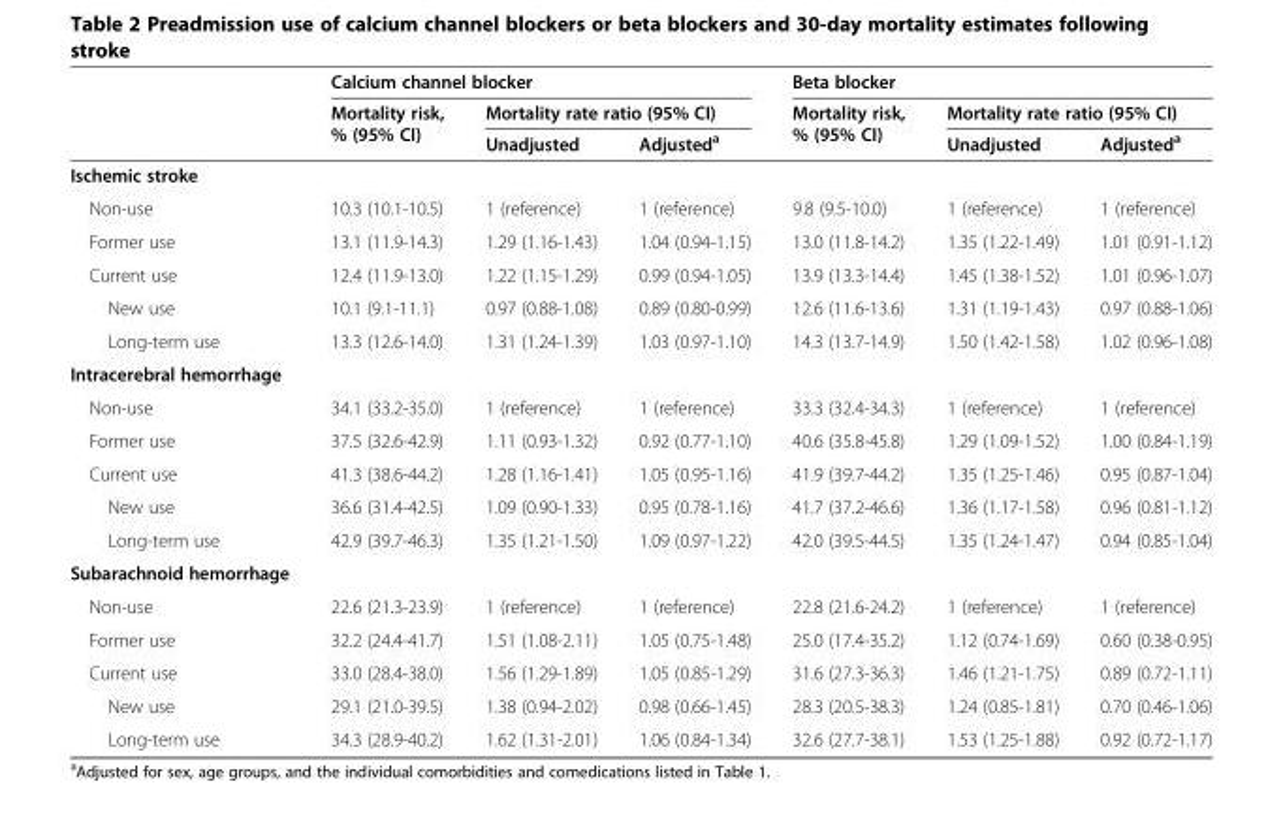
<table><thead><tr><td rowspan="3"></td><td colspan="3">Calcium channel blocker</td><td colspan="3">Beta blocker</td></tr><tr><td rowspan="2">Mortality risk, % (95% CI)</td><td colspan="2">Mortality rate ratio (95% CI)</td><td rowspan="2">Mortality risk, % (95% CI)</td><td colspan="2">Mortality rate ratio (95% CI)</td></tr><tr><td>Unadjusted</td><td>Adjusted<sup>a</sup></td><td>Unadjusted</td><td>Adjusted<sup>a</sup></td></tr></thead><tbody><tr><td colspan="7">Ischemic stroke</td></tr><tr><td>Non-use</td><td>10.3 (10.1-10.5)</td><td>1 (reference)</td><td>1 (reference)</td><td>9.8 (9.5-10.0)</td><td>1 (reference)</td><td>1 (reference)</td></tr><tr><td>Former use</td><td>13.1 (11.9-14.3)</td><td>1.29 (1.16-1.43)</td><td>1.04 (0.94-1.15)</td><td>13.0 (11.8-14.2)</td><td>1.35 (1.22-1.49)</td><td>1.01 (0.91-1.12)</td></tr><tr><td>Current use</td><td>12.4 (11.9-13.0)</td><td>1.22 (1.15-1.29)</td><td>0.99 (0.94-1.05)</td><td>13.9 (13.3-14.4)</td><td>1.45 (1.38-1.52)</td><td>1.01 (0.96-1.07)</td></tr><tr><td>New use</td><td>10.1 (9.1-11.1)</td><td>0.97 (0.88-1.08)</td><td>0.89 (0.80-0.99)</td><td>12.6 (11.6-13.6)</td><td>1.31 (1.19-1.43)</td><td>0.97 (0.88-1.06)</td></tr><tr><td>Long-term use</td><td>13.3 (12.6-14.0)</td><td>1.31 (1.24-1.39)</td><td>1.03 (0.97-1.10)</td><td>14.3 (13.7-14.9)</td><td>1.50 (1.42-1.58)</td><td>1.02 (0.96-1.08)</td></tr><tr><td colspan="7">Intracerebral hemorrhage</td></tr><tr><td>Non-use</td><td>34.1 (33.2-35.0)</td><td>1 (reference)</td><td>1 (reference)</td><td>33.3 (32.4-34.3)</td><td>1 (reference)</td><td>1 (reference)</td></tr><tr><td>Former use</td><td>37.5 (32.6-42.9)</td><td>1.11 (0.93-1.32)</td><td>0.92 (0.77-1.10)</td><td>40.6 (35.8-45.8)</td><td>1.29 (1.09-1.52)</td><td>1.00 (0.84-1.19)</td></tr><tr><td>Current use</td><td>41.3 (38.6-44.2)</td><td>1.28 (1.16-1.41)</td><td>1.05 (0.95-1.16)</td><td>41.9 (39.7-44.2)</td><td>1.35 (1.25-1.46)</td><td>0.95 (0.87-1.04)</td></tr><tr><td>New use</td><td>36.6 (31.4-42.5)</td><td>1.09 (0.90-1.33)</td><td>0.95 (0.78-1.16)</td><td>41.7 (37.2-46.6)</td><td>1.36 (1.17-1.58)</td><td>0.96 (0.81-1.12)</td></tr><tr><td>Long-term use</td><td>42.9 (39.7-46.3)</td><td>1.35 (1.21-1.50)</td><td>1.09 (0.97-1.22)</td><td>42.0 (39.5-44.5)</td><td>1.35 (1.24-1.47)</td><td>0.94 (0.85-1.04)</td></tr><tr><td colspan="7">Subarachnoid hemorrhage</td></tr><tr><td>Non-use</td><td>22.6 (21.3-23.9)</td><td>1 (reference)</td><td>1 (reference)</td><td>22.8 (21.6-24.2)</td><td>1 (reference)</td><td>1 (reference)</td></tr><tr><td>Former use</td><td>32.2 (24.4-41.7)</td><td>1.51 (1.08-2.11)</td><td>1.05 (0.75-1.48)</td><td>25.0 (17.4-35.2)</td><td>1.12 (0.74-1.69)</td><td>0.60 (0.38-0.95)</td></tr><tr><td>Current use</td><td>33.0 (28.4-38.0)</td><td>1.56 (1.29-1.89)</td><td>1.05 (0.85-1.29)</td><td>31.6 (27.3-36.3)</td><td>1.46 (1.21-1.75)</td><td>0.89 (0.72-1.11)</td></tr><tr><td>New use</td><td>29.1 (21.0-39.5)</td><td>1.38 (0.94-2.02)</td><td>0.98 (0.66-1.45)</td><td>28.3 (20.5-38.3)</td><td>1.24 (0.85-1.81)</td><td>0.70 (0.46-1.06)</td></tr><tr><td>Long-term use</td><td>34.3 (28.9-40.2)</td><td>1.62 (1.31-2.01)</td><td>1.06 (0.84-1.34)</td><td>32.6 (27.7-38.1)</td><td>1.53 (1.25-1.88)</td><td>0.92 (0.72-1.17)</td></tr></tbody></table>